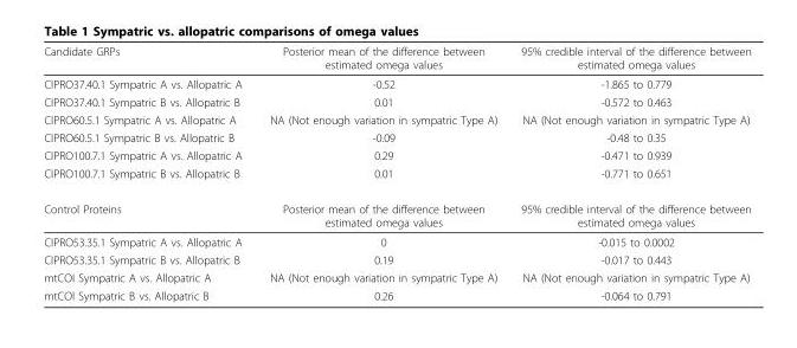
<table><thead><tr><td>Candidate GRPs</td><td>Posterior mean of the difference between estimated omega values</td><td>95% credible interval of the difference between estimated omega values</td></tr></thead><tbody><tr><td>CIPRO37.40.1 Sympatric A vs. Allopatric A</td><td>-0.52</td><td>-1.865 to 0.779</td></tr><tr><td>CIPRO37.40.1 Sympatric B vs. Allopatric B</td><td>0.01</td><td>-0.572 to 0.463</td></tr><tr><td>CIPRO60.5.1 Sympatric A vs. Allopatric A</td><td>NA (Not enough variation in sympatric Type A)</td><td>NA (Not enough variation in sympatric Type A)</td></tr><tr><td>CIPRO60.5.1 Sympatric B vs. Allopatric B</td><td>-0.09</td><td>-0.48 to 0.35</td></tr><tr><td>CIPRO100.7.1 Sympatric A vs. Allopatric A</td><td>0.29</td><td>-0.471 to 0.939</td></tr><tr><td>CIPRO100.7.1 Sympatric B vs. Allopatric B</td><td>0.01</td><td>-0.771 to 0.651</td></tr><tr><td>Control Proteins</td><td>Posterior mean of the difference between estimated omega values</td><td>95% credible interval of the difference between estimated omega values</td></tr><tr><td>CIPRO53.35.1 Sympatric A vs. Allopatric A</td><td>0</td><td>-0.015 to 0.0002</td></tr><tr><td>CIPRO53.35.1 Sympatric B vs. Allopatric B</td><td>0.19</td><td>-0.017 to 0.443</td></tr><tr><td>mtCOI Sympatric A vs. Allopatric A</td><td>NA (Not enough variation in sympatric Type A)</td><td>NA (Not enough variation in sympatric Type A)</td></tr><tr><td>mtCOI Sympatric B vs. Allopatric B</td><td>0.26</td><td>-0.064 to 0.791</td></tr></tbody></table>